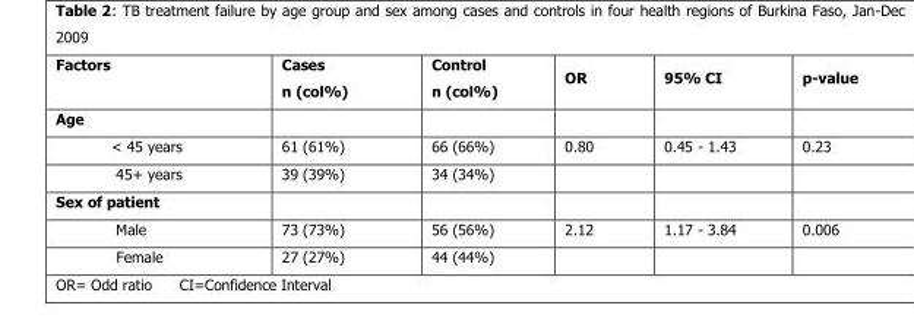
<table><thead><tr><td>Factors</td><td>Cases n (col%)</td><td>Control n (col%)</td><td>OR</td><td>95% CI</td><td>p-value</td></tr></thead><tbody><tr><td colspan="6">Age</td></tr><tr><td>&lt; 45 years</td><td>61 (61%)</td><td>66 (66%)</td><td>0.80</td><td>0.45 - 1.43</td><td>0.23</td></tr><tr><td>45+ years</td><td>39 (39%)</td><td>34 (34%)</td><td></td><td></td><td></td></tr><tr><td colspan="6">Sex of patient</td></tr><tr><td>Male</td><td>73 (73%)</td><td>56 (56%)</td><td>2.12</td><td>1.17 - 3.84</td><td>0.006</td></tr><tr><td>Female</td><td>27 (27%)</td><td>44 (44%)</td><td></td><td></td><td></td></tr></tbody></table>